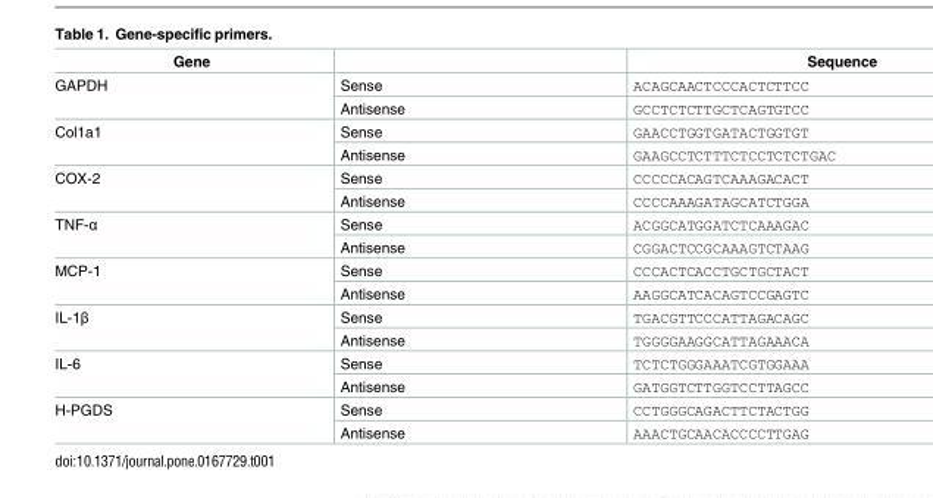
<table><thead><tr><td>Gene</td><td></td><td>Sequence</td></tr></thead><tbody><tr><td rowspan="2">GAPDH</td><td>Sense</td><td>ACAGCAACTCCCACTCTTCC</td></tr><tr><td>Antisense</td><td>GCCTCTCTTGCTCAGTGTCC</td></tr><tr><td rowspan="2">Col1a1</td><td>Sense</td><td>GAACCTGGTGATACTGGTGT</td></tr><tr><td>Antisense</td><td>GAAGCCTCTTTCTCCTCTCTGAC</td></tr><tr><td rowspan="2">COX-2</td><td>Sense</td><td>CCCCCACAGTCAAAGACACT</td></tr><tr><td>Antisense</td><td>CCCCAAAGATAGCATCTGGA</td></tr><tr><td rowspan="2">TNF-α</td><td>Sense</td><td>ACGGCATGGATCTCAAAGAC</td></tr><tr><td>Antisense</td><td>CGGACTCCGCAAAGTCTAAG</td></tr><tr><td rowspan="2">MCP-1</td><td>Sense</td><td>CCCACTCACCTGCTGCTACT</td></tr><tr><td>Antisense</td><td>AAGGCATCACAGTCCGAGTC</td></tr><tr><td rowspan="2">IL-1β</td><td>Sense</td><td>TGACGTTCCCATTAGACAGC</td></tr><tr><td>Antisense</td><td>TGGGGAAGGCATTAGAAACA</td></tr><tr><td rowspan="2">IL-6</td><td>Sense</td><td>TCTCTGGGAAATCGTGGAAA</td></tr><tr><td>Antisense</td><td>GATGGTCTTGGTCCTTAGCC</td></tr><tr><td rowspan="2">H-PGDS</td><td>Sense</td><td>CCTGGGCAGACTTCTACTGG</td></tr><tr><td>Antisense</td><td>AAACTGCAACACCCCTTGAG</td></tr></tbody></table>